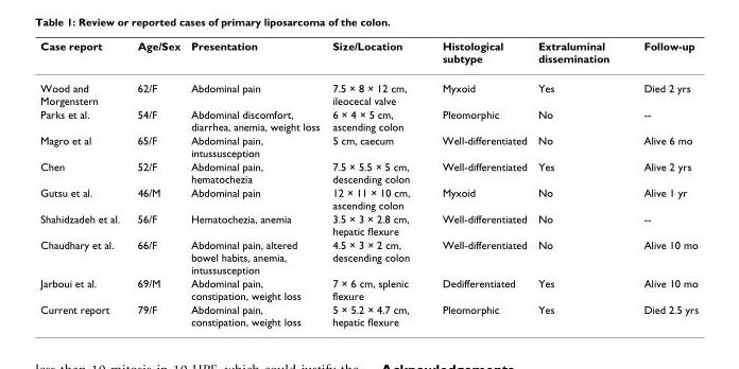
<table><thead><tr><td>Case report</td><td>Age/Sex</td><td>Presentation</td><td>Size/Location</td><td>Histological subtype</td><td>Extraluminal dissemination</td><td>Follow-up</td></tr></thead><tbody><tr><td>Wood and Morgenstern</td><td>62/F</td><td>Abdominal pain</td><td>7.5 × 8 × 12 cm, ileocecal valve</td><td>Myxoid</td><td>Yes</td><td>Died 2 yrs</td></tr><tr><td>Parks et al.</td><td>54/F</td><td>Abdominal discomfort, diarrhea, anemia, weight loss</td><td>6 × 4 × 5 cm, ascending colon</td><td>Pleomorphic</td><td>No</td><td>--</td></tr><tr><td>Magro et al</td><td>65/F</td><td>Abdominal pain, intussusception</td><td>5 cm, caecum</td><td>Well-differentiated</td><td>No</td><td>Alive 6 mo</td></tr><tr><td>Chen</td><td>52/F</td><td>Abdominal pain, hematochezia</td><td>7.5 × 5.5 × 5 cm, descending colon</td><td>Well-differentiated</td><td>Yes</td><td>Alive 2 yrs</td></tr><tr><td>Gutsu et al.</td><td>46/M</td><td>Abdominal pain</td><td>12 × 11 × 10 cm, ascending colon</td><td>Myxoid</td><td>No</td><td>Alive 1 yr</td></tr><tr><td>Shahidzadeh et al.</td><td>56/F</td><td>Hematochezia, anemia</td><td>3.5 × 3 × 2.8 cm, hepatic flexure</td><td>Well-differentiated</td><td>No</td><td>--</td></tr><tr><td>Chaudhary et al.</td><td>66/F</td><td>Abdominal pain, altered bowel habits, anemia, intussusception</td><td>4.5 × 3 × 2 cm, descending colon</td><td>Well-differentiated</td><td>No</td><td>Alive 10 mo</td></tr><tr><td>Jarboui et al.</td><td>69/M</td><td>Abdominal pain, constipation, weight loss</td><td>7 × 6 cm, splenic flexure</td><td>Dedifferentiated</td><td>Yes</td><td>Alive 10 mo</td></tr><tr><td>Current report</td><td>79/F</td><td>Abdominal pain, constipation, weight loss</td><td>5 × 5.2 × 4.7 cm, hepatic flexure</td><td>Pleomorphic</td><td>Yes</td><td>Died 2.5 yrs</td></tr></tbody></table>